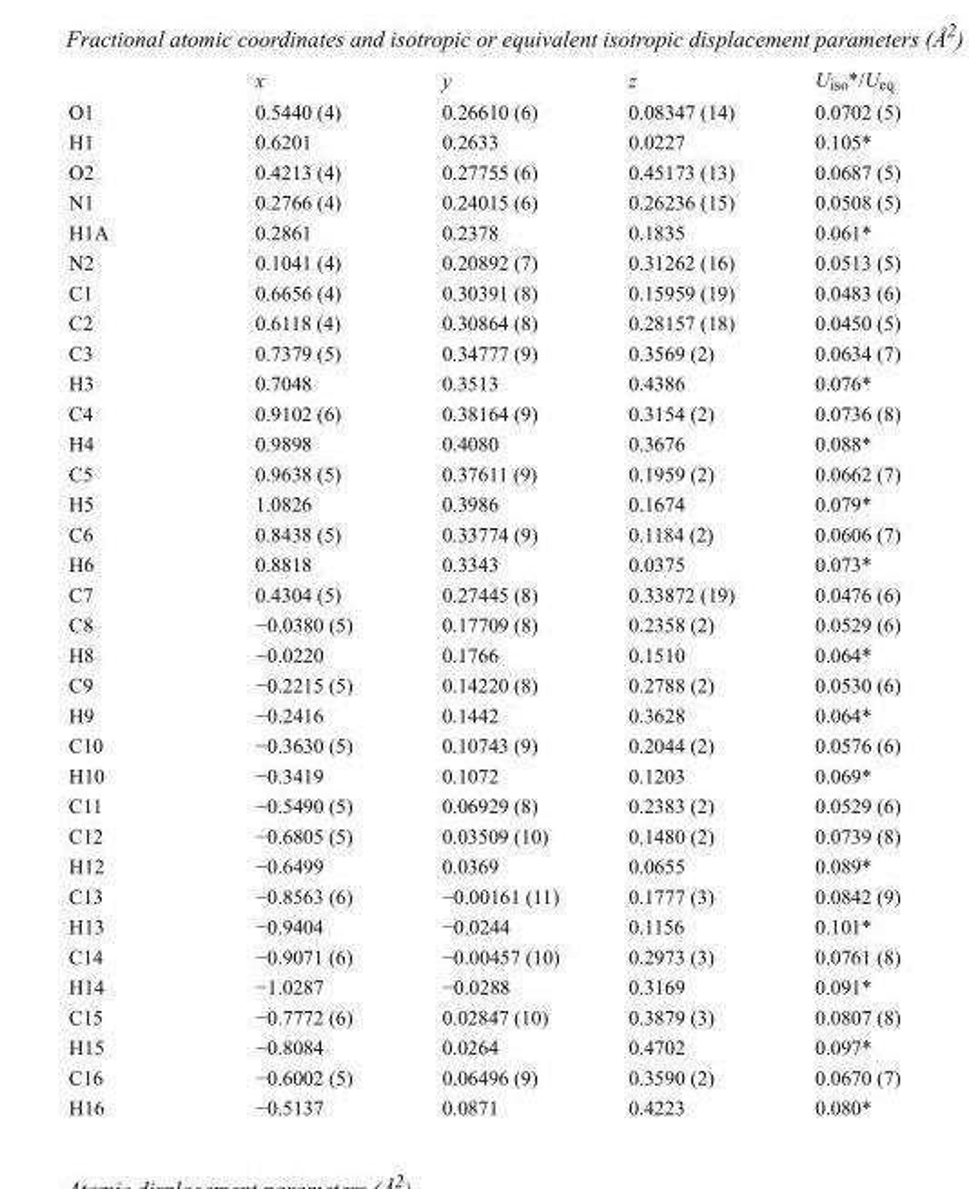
<table><thead><tr><td></td><td>x</td><td>y</td><td>z</td><td>U<sub>iso</sub>*/U<sub>eq</sub></td></tr></thead><tbody><tr><td>O1</td><td>0.5440 (4)</td><td>0.26610 (6)</td><td>0.08347 (14)</td><td>0.0702 (5)</td></tr><tr><td>H1</td><td>0.6201</td><td>0.2633</td><td>0.0227</td><td>0.105*</td></tr><tr><td>O2</td><td>0.4213 (4)</td><td>0.27755 (6)</td><td>0.45173 (13)</td><td>0.0687 (5)</td></tr><tr><td>N1</td><td>0.2766 (4)</td><td>0.24015 (6)</td><td>0.26236 (15)</td><td>0.0508 (5)</td></tr><tr><td>H1A</td><td>0.2861</td><td>0.2378</td><td>0.1835</td><td>0.061*</td></tr><tr><td>N2</td><td>0.1041 (4)</td><td>0.20892 (7)</td><td>0.31262 (16)</td><td>0.0513 (5)</td></tr><tr><td>C1</td><td>0.6656 (4)</td><td>0.30391 (8)</td><td>0.15959 (19)</td><td>0.0483 (6)</td></tr><tr><td>C2</td><td>0.6118 (4)</td><td>0.30864 (8)</td><td>0.28157 (18)</td><td>0.0450 (5)</td></tr><tr><td>C3</td><td>0.7379 (5)</td><td>0.34777 (9)</td><td>0.3569 (2)</td><td>0.0634 (7)</td></tr><tr><td>H3</td><td>0.7048</td><td>0.3513</td><td>0.4386</td><td>0.076*</td></tr><tr><td>C4</td><td>0.9102 (6)</td><td>0.38164 (9)</td><td>0.3154 (2)</td><td>0.0736 (8)</td></tr><tr><td>H4</td><td>0.9898</td><td>0.4080</td><td>0.3676</td><td>0.088*</td></tr><tr><td>C5</td><td>0.9638 (5)</td><td>0.37611 (9)</td><td>0.1959 (2)</td><td>0.0662 (7)</td></tr><tr><td>H5</td><td>1.0826</td><td>0.3986</td><td>0.1674</td><td>0.079*</td></tr><tr><td>C6</td><td>0.8438 (5)</td><td>0.33774 (9)</td><td>0.1184 (2)</td><td>0.0606 (7)</td></tr><tr><td>H6</td><td>0.8818</td><td>0.3343</td><td>0.0375</td><td>0.073*</td></tr><tr><td>C7</td><td>0.4304 (5)</td><td>0.27445 (8)</td><td>0.33872 (19)</td><td>0.0476 (6)</td></tr><tr><td>C8</td><td>−0.0380 (5)</td><td>0.17709 (8)</td><td>0.2358 (2)</td><td>0.0529 (6)</td></tr><tr><td>H8</td><td>−0.0220</td><td>0.1766</td><td>0.1510</td><td>0.064*</td></tr><tr><td>C9</td><td>−0.2215 (5)</td><td>0.14220 (8)</td><td>0.2788 (2)</td><td>0.0530 (6)</td></tr><tr><td>H9</td><td>−0.2416</td><td>0.1442</td><td>0.3628</td><td>0.064*</td></tr><tr><td>C10</td><td>−0.3630 (5)</td><td>0.10743 (9)</td><td>0.2044 (2)</td><td>0.0576 (6)</td></tr><tr><td>H10</td><td>−0.3419</td><td>0.1072</td><td>0.1203</td><td>0.069*</td></tr><tr><td>C11</td><td>−0.5490 (5)</td><td>0.06929 (8)</td><td>0.2383 (2)</td><td>0.0529 (6)</td></tr><tr><td>C12</td><td>−0.6805 (5)</td><td>0.03509 (10)</td><td>0.1480 (2)</td><td>0.0739 (8)</td></tr><tr><td>H12</td><td>−0.6499</td><td>0.0369</td><td>0.0655</td><td>0.089*</td></tr><tr><td>C13</td><td>−0.8563 (6)</td><td>−0.00161 (11)</td><td>0.1777 (3)</td><td>0.0842 (9)</td></tr><tr><td>H13</td><td>−0.9404</td><td>−0.0244</td><td>0.1156</td><td>0.101*</td></tr><tr><td>C14</td><td>−0.9071 (6)</td><td>−0.00457 (10)</td><td>0.2973 (3)</td><td>0.0761 (8)</td></tr><tr><td>H14</td><td>−1.0287</td><td>−0.0288</td><td>0.3169</td><td>0.091*</td></tr><tr><td>C15</td><td>−0.7772 (6)</td><td>0.02847 (10)</td><td>0.3879 (3)</td><td>0.0807 (8)</td></tr><tr><td>H15</td><td>−0.8084</td><td>0.0264</td><td>0.4702</td><td>0.097*</td></tr><tr><td>C16</td><td>−0.6002 (5)</td><td>0.06496 (9)</td><td>0.3590 (2)</td><td>0.0670 (7)</td></tr><tr><td>H16</td><td>−0.5137</td><td>0.0871</td><td>0.4223</td><td>0.080*</td></tr></tbody></table>